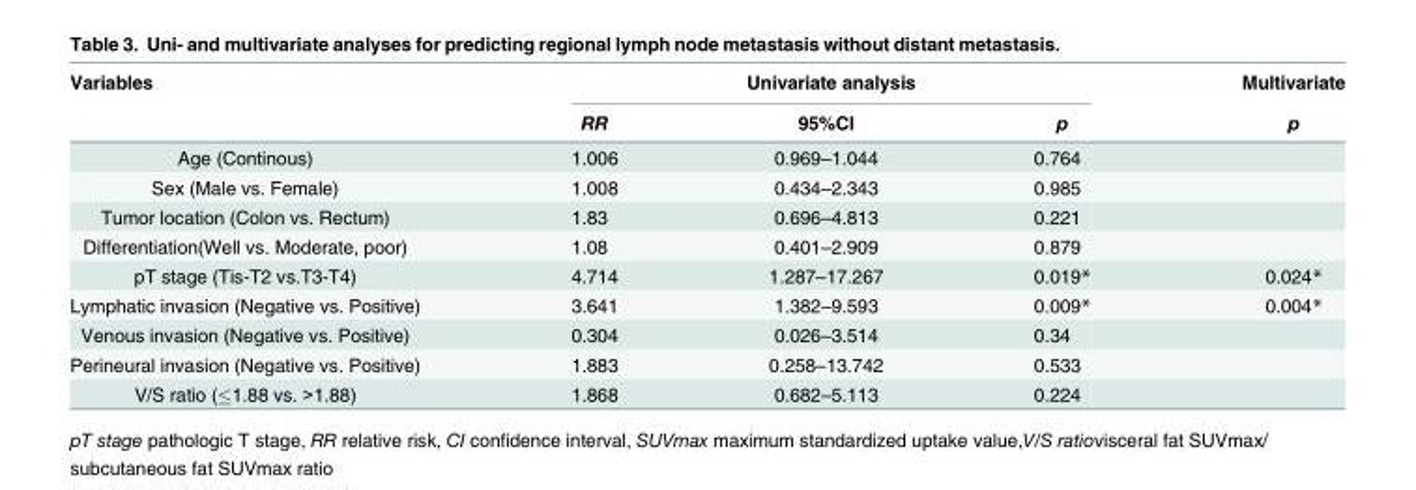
<table><thead><tr><td rowspan="2">Variables</td><td colspan="3">Univariate analysis</td><td rowspan="2">Multivariate p</td></tr><tr><td>RR</td><td>95%CI</td><td>p</td></tr></thead><tbody><tr><td>Age (Continous)</td><td>1.006</td><td>0.969–1.044</td><td>0.764</td><td></td></tr><tr><td>Sex (Male vs. Female)</td><td>1.008</td><td>0.434–2.343</td><td>0.985</td><td></td></tr><tr><td>Tumor location (Colon vs. Rectum)</td><td>1.83</td><td>0.696–4.813</td><td>0.221</td><td></td></tr><tr><td>Differentiation(Well vs. Moderate, poor)</td><td>1.08</td><td>0.401–2.909</td><td>0.879</td><td></td></tr><tr><td>pT stage (Tis-T2 vs.T3-T4)</td><td>4.714</td><td>1.287–17.267</td><td>0.019*</td><td>0.024*</td></tr><tr><td>Lymphatic invasion (Negative vs. Positive)</td><td>3.641</td><td>1.382–9.593</td><td>0.009*</td><td>0.004*</td></tr><tr><td>Venous invasion (Negative vs. Positive)</td><td>0.304</td><td>0.026–3.514</td><td>0.34</td><td></td></tr><tr><td>Perineural invasion (Negative vs. Positive)</td><td>1.883</td><td>0.258–13.742</td><td>0.533</td><td></td></tr><tr><td>V/S ratio (≤1.88 vs. &gt;1.88)</td><td>1.868</td><td>0.682–5.113</td><td>0.224</td><td></td></tr></tbody></table>